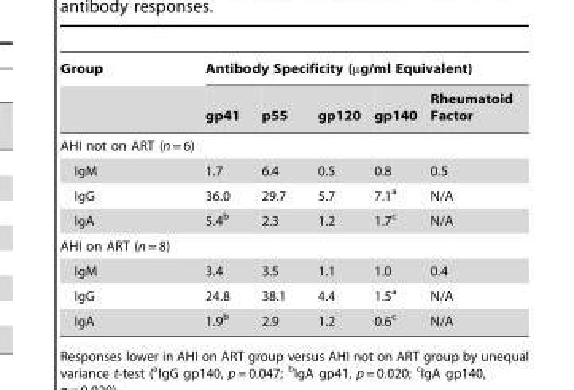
<table><thead><tr><td rowspan="2">Group</td><td colspan="5">Antibody Specificity (µg/ml Equivalent)</td></tr><tr><td>gp41</td><td>p55</td><td>gp120</td><td>gp140</td><td>Rheumatoid Factor</td></tr></thead><tbody><tr><td colspan="6">AHI not on ART (n = 6)</td></tr><tr><td>IgM</td><td>1.7</td><td>6.4</td><td>0.5</td><td>0.8</td><td>0.5</td></tr><tr><td>IgG</td><td>36.0</td><td>29.7</td><td>5.7</td><td>7.1<sup>a</sup></td><td>N/A</td></tr><tr><td>IgA</td><td>5.4<sup>b</sup></td><td>2.3</td><td>1.2</td><td>1.7<sup>c</sup></td><td>N/A</td></tr><tr><td colspan="6">AHI on ART (n = 8)</td></tr><tr><td>IgM</td><td>3.4</td><td>3.5</td><td>1.1</td><td>1.0</td><td>0.4</td></tr><tr><td>IgG</td><td>24.8</td><td>38.1</td><td>4.4</td><td>1.5<sup>a</sup></td><td>N/A</td></tr><tr><td>IgA</td><td>1.9<sup>b</sup></td><td>2.9</td><td>1.2</td><td>0.6<sup>c</sup></td><td>N/A</td></tr></tbody></table>